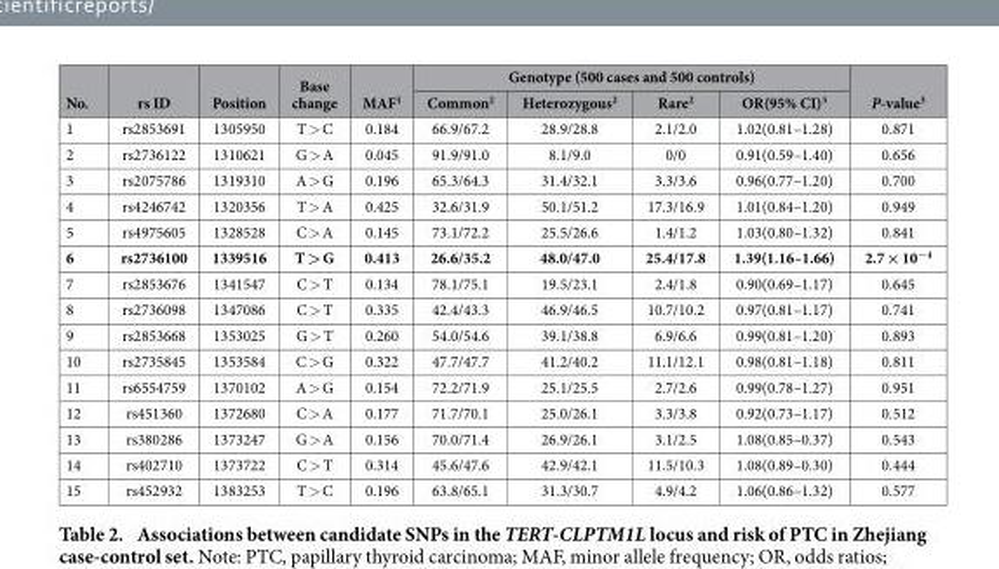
<table><thead><tr><td rowspan="2">No.</td><td rowspan="2">rs ID</td><td rowspan="2">Position</td><td rowspan="2">Base change</td><td rowspan="2">MAF<sup>1</sup></td><td colspan="4">Genotype (500 cases and 500 controls)</td><td rowspan="2">P-value<sup>3</sup></td></tr><tr><td>Common<sup>2</sup></td><td>Heterozygous<sup>2</sup></td><td>Rare<sup>2</sup></td><td>OR(95% CI)<sup>3</sup></td></tr></thead><tbody><tr><td>1</td><td>rs2853691</td><td>1305950</td><td>T &gt; C</td><td>0.184</td><td>66.9/67.2</td><td>28.9/28.8</td><td>2.1/2.0</td><td>1.02(0.81–1.28)</td><td>0.871</td></tr><tr><td>2</td><td>rs2736122</td><td>1310621</td><td>G &gt; A</td><td>0.045</td><td>91.9/91.0</td><td>8.1/9.0</td><td>0/0</td><td>0.91(0.59–1.40)</td><td>0.656</td></tr><tr><td>3</td><td>rs2075786</td><td>1319310</td><td>A &gt; G</td><td>0.196</td><td>65.3/64.3</td><td>31.4/32.1</td><td>3.3/3.6</td><td>0.96(0.77–1.20)</td><td>0.700</td></tr><tr><td>4</td><td>rs4246742</td><td>1320356</td><td>T &gt; A</td><td>0.425</td><td>32.6/31.9</td><td>50.1/51.2</td><td>17.3/16.9</td><td>1.01(0.84–1.20)</td><td>0.949</td></tr><tr><td>5</td><td>rs4975605</td><td>1328528</td><td>C &gt; A</td><td>0.145</td><td>73.1/72.2</td><td>25.5/26.6</td><td>1.4/1.2</td><td>1.03(0.80–1.32)</td><td>0.841</td></tr><tr><td>6</td><td>rs2736100</td><td>1339516</td><td>T &gt; G</td><td>0.413</td><td>26.6/35.2</td><td>48.0/47.0</td><td>25.4/17.8</td><td>1.39(1.16–1.66)</td><td>2.7 × 10<sup>−4</sup></td></tr><tr><td>7</td><td>rs2853676</td><td>1341547</td><td>C &gt; T</td><td>0.134</td><td>78.1/75.1</td><td>19.5/23.1</td><td>2.4/1.8</td><td>0.90(0.69–1.17)</td><td>0.645</td></tr><tr><td>8</td><td>rs2736098</td><td>1347086</td><td>C &gt; T</td><td>0.335</td><td>42.4/43.3</td><td>46.9/46.5</td><td>10.7/10.2</td><td>0.97(0.81–1.17)</td><td>0.741</td></tr><tr><td>9</td><td>rs2853668</td><td>1353025</td><td>G &gt; T</td><td>0.260</td><td>54.0/54.6</td><td>39.1/38.8</td><td>6.9/6.6</td><td>0.99(0.81–1.20)</td><td>0.893</td></tr><tr><td>10</td><td>rs2735845</td><td>1353584</td><td>C &gt; G</td><td>0.322</td><td>47.7/47.7</td><td>41.2/40.2</td><td>11.1/12.1</td><td>0.98(0.81–1.18)</td><td>0.811</td></tr><tr><td>11</td><td>rs6554759</td><td>1370102</td><td>A &gt; G</td><td>0.154</td><td>72.2/71.9</td><td>25.1/25.5</td><td>2.7/2.6</td><td>0.99(0.78–1.27)</td><td>0.951</td></tr><tr><td>12</td><td>rs451360</td><td>1372680</td><td>C &gt; A</td><td>0.177</td><td>71.7/70.1</td><td>25.0/26.1</td><td>3.3/3.8</td><td>0.92(0.73–1.17)</td><td>0.512</td></tr><tr><td>13</td><td>rs380286</td><td>1373247</td><td>G &gt; A</td><td>0.156</td><td>70.0/71.4</td><td>26.9/26.1</td><td>3.1/2.5</td><td>1.08(0.85–0.37)</td><td>0.543</td></tr><tr><td>14</td><td>rs402710</td><td>1373722</td><td>C &gt; T</td><td>0.314</td><td>45.6/47.6</td><td>42.9/42.1</td><td>11.5/10.3</td><td>1.08(0.89–0.30)</td><td>0.444</td></tr><tr><td>15</td><td>rs452932</td><td>1383253</td><td>T &gt; C</td><td>0.196</td><td>63.8/65.1</td><td>31.3/30.7</td><td>4.9/4.2</td><td>1.06(0.86–1.32)</td><td>0.577</td></tr></tbody></table>